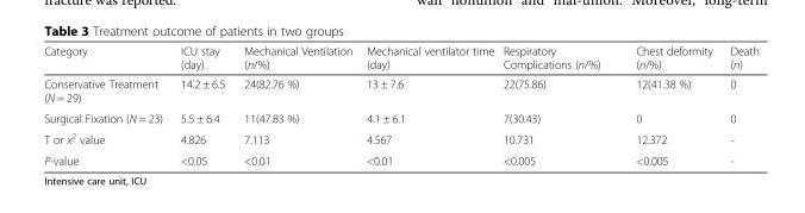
<table><thead><tr><td>Category</td><td>ICU stay (day)</td><td>Mechanical Ventilation (n/%)</td><td>Mechanical ventilator time (day)</td><td>Respiratory Complications (n/%)</td><td>Chest deformity (n/%)</td><td>Death (n)</td></tr></thead><tbody><tr><td>Conservative Treatment (N = 29)</td><td>14.2 ± 6.5</td><td>24(82.76 %)</td><td>13 ± 7.6</td><td>22(75.86)</td><td>12(41.38 %)</td><td>0</td></tr><tr><td>Surgical Fixation (N = 23)</td><td>5.5 ± 6.4</td><td>11(47.83 %)</td><td>4.1 ± 6.1</td><td>7(30.43)</td><td>0</td><td>0</td></tr><tr><td>T or x<sup>2</sup> value</td><td>4.826</td><td>7.113</td><td>4.567</td><td>10.731</td><td>12.372</td><td>-</td></tr><tr><td>P-value</td><td>&lt;0.05</td><td>&lt;0.01</td><td>&lt;0.01</td><td>&lt;0.005</td><td>&lt;0.005</td><td>-</td></tr></tbody></table>